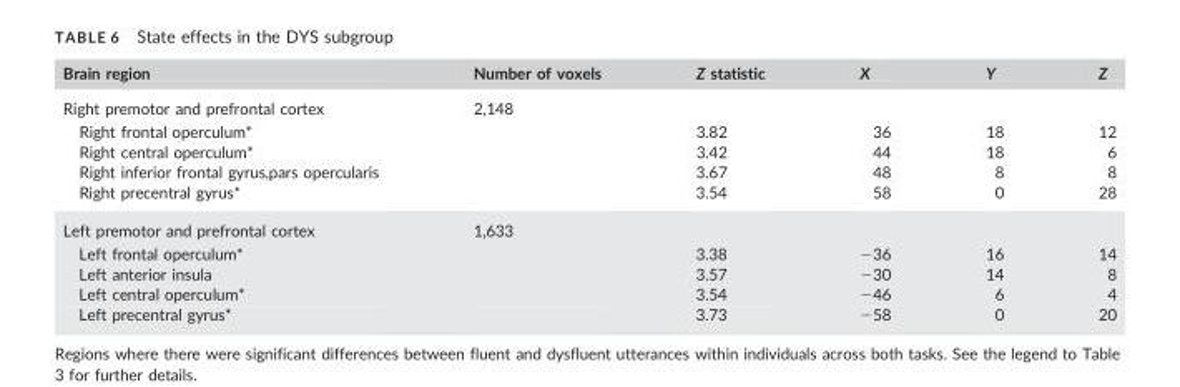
<table><thead><tr><td>Brain region</td><td>Number of voxels</td><td>Z statistic</td><td>X</td><td>Y</td><td>Z</td></tr></thead><tbody><tr><td>Right premotor and prefrontal cortex</td><td>2,148</td><td></td><td></td><td></td><td></td></tr><tr><td>Right frontal operculum*</td><td></td><td>3.82</td><td>36</td><td>18</td><td>12</td></tr><tr><td>Right central operculum*</td><td></td><td>3.42</td><td>44</td><td>18</td><td>6</td></tr><tr><td>Right inferior frontal gyrus,pars opercularis</td><td></td><td>3.67</td><td>48</td><td>8</td><td>8</td></tr><tr><td>Right precentral gyrus*</td><td></td><td>3.54</td><td>58</td><td>0</td><td>28</td></tr><tr><td>Left premotor and prefrontal cortex</td><td>1,633</td><td></td><td></td><td></td><td></td></tr><tr><td>Left frontal operculum*</td><td></td><td>3.38</td><td>−36</td><td>16</td><td>14</td></tr><tr><td>Left anterior insula</td><td></td><td>3.57</td><td>−30</td><td>14</td><td>8</td></tr><tr><td>Left central operculum*</td><td></td><td>3.54</td><td>−46</td><td>6</td><td>4</td></tr><tr><td>Left precentral gyrus*</td><td></td><td>3.73</td><td>−58</td><td>0</td><td>20</td></tr></tbody></table>